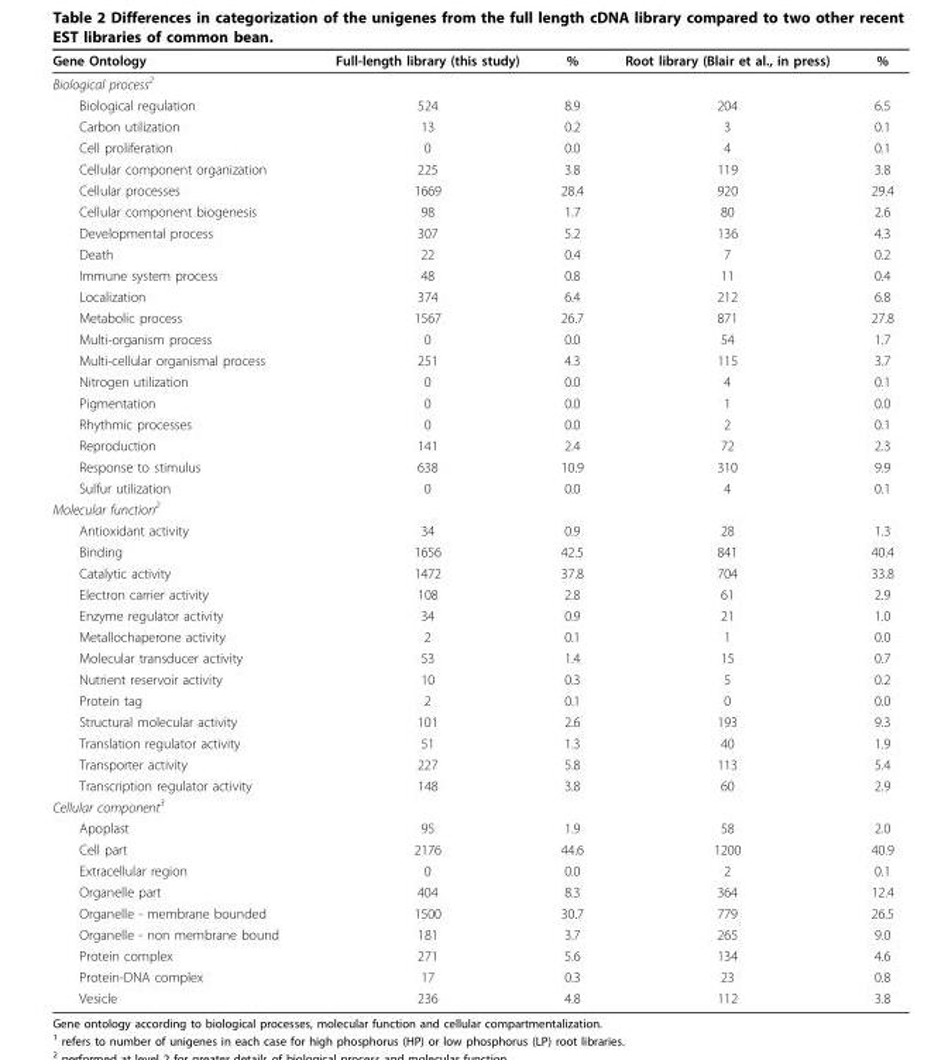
<table><thead><tr><td>Gene Ontology</td><td>Full-length library (this study)</td><td>%</td><td>Root library (Blair et al., in press)</td><td>%</td></tr></thead><tbody><tr><td colspan="5">Biological process<sup>2</sup></td></tr><tr><td>Biological regulation</td><td>524</td><td>8.9</td><td>204</td><td>6.5</td></tr><tr><td>Carbon utilization</td><td>13</td><td>0.2</td><td>3</td><td>0.1</td></tr><tr><td>Cell proliferation</td><td>0</td><td>0.0</td><td>4</td><td>0.1</td></tr><tr><td>Cellular component organization</td><td>225</td><td>3.8</td><td>119</td><td>3.8</td></tr><tr><td>Cellular processes</td><td>1669</td><td>28.4</td><td>920</td><td>29.4</td></tr><tr><td>Cellular component biogenesis</td><td>98</td><td>1.7</td><td>80</td><td>2.6</td></tr><tr><td>Developmental process</td><td>307</td><td>5.2</td><td>136</td><td>4.3</td></tr><tr><td>Death</td><td>22</td><td>0.4</td><td>7</td><td>0.2</td></tr><tr><td>Immune system process</td><td>48</td><td>0.8</td><td>11</td><td>0.4</td></tr><tr><td>Localization</td><td>374</td><td>6.4</td><td>212</td><td>6.8</td></tr><tr><td>Metabolic process</td><td>1567</td><td>26.7</td><td>871</td><td>27.8</td></tr><tr><td>Multi-organism process</td><td>0</td><td>0.0</td><td>54</td><td>1.7</td></tr><tr><td>Multi-cellular organismal process</td><td>251</td><td>4.3</td><td>115</td><td>3.7</td></tr><tr><td>Nitrogen utilization</td><td>0</td><td>0.0</td><td>4</td><td>0.1</td></tr><tr><td>Pigmentation</td><td>0</td><td>0.0</td><td>1</td><td>0.0</td></tr><tr><td>Rhythmic processes</td><td>0</td><td>0.0</td><td>2</td><td>0.1</td></tr><tr><td>Reproduction</td><td>141</td><td>2.4</td><td>72</td><td>2.3</td></tr><tr><td>Response to stimulus</td><td>638</td><td>10.9</td><td>310</td><td>9.9</td></tr><tr><td>Sulfur utilization</td><td>0</td><td>0.0</td><td>4</td><td>0.1</td></tr><tr><td colspan="5">Molecular function<sup>2</sup></td></tr><tr><td>Antioxidant activity</td><td>34</td><td>0.9</td><td>28</td><td>1.3</td></tr><tr><td>Binding</td><td>1656</td><td>42.5</td><td>841</td><td>40.4</td></tr><tr><td>Catalytic activity</td><td>1472</td><td>37.8</td><td>704</td><td>33.8</td></tr><tr><td>Electron carrier activity</td><td>108</td><td>2.8</td><td>61</td><td>2.9</td></tr><tr><td>Enzyme regulator activity</td><td>34</td><td>0.9</td><td>21</td><td>1.0</td></tr><tr><td>Metallochaperone activity</td><td>2</td><td>0.1</td><td>1</td><td>0.0</td></tr><tr><td>Molecular transducer activity</td><td>53</td><td>1.4</td><td>15</td><td>0.7</td></tr><tr><td>Nutrient reservoir activity</td><td>10</td><td>0.3</td><td>5</td><td>0.2</td></tr><tr><td>Protein tag</td><td>2</td><td>0.1</td><td>0</td><td>0.0</td></tr><tr><td>Structural molecular activity</td><td>101</td><td>2.6</td><td>193</td><td>9.3</td></tr><tr><td>Translation regulator activity</td><td>51</td><td>1.3</td><td>40</td><td>1.9</td></tr><tr><td>Transporter activity</td><td>227</td><td>5.8</td><td>113</td><td>5.4</td></tr><tr><td>Transcription regulator activity</td><td>148</td><td>3.8</td><td>60</td><td>2.9</td></tr><tr><td colspan="5">Cellular component<sup>3</sup></td></tr><tr><td>Apoplast</td><td>95</td><td>1.9</td><td>58</td><td>2.0</td></tr><tr><td>Cell part</td><td>2176</td><td>44.6</td><td>1200</td><td>40.9</td></tr><tr><td>Extracellular region</td><td>0</td><td>0.0</td><td>2</td><td>0.1</td></tr><tr><td>Organelle part</td><td>404</td><td>8.3</td><td>364</td><td>12.4</td></tr><tr><td>Organelle - membrane bounded</td><td>1500</td><td>30.7</td><td>779</td><td>26.5</td></tr><tr><td>Organelle - non membrane bound</td><td>181</td><td>3.7</td><td>265</td><td>9.0</td></tr><tr><td>Protein complex</td><td>271</td><td>5.6</td><td>134</td><td>4.6</td></tr><tr><td>Protein-DNA complex</td><td>17</td><td>0.3</td><td>23</td><td>0.8</td></tr><tr><td>Vesicle</td><td>236</td><td>4.8</td><td>112</td><td>3.8</td></tr></tbody></table>